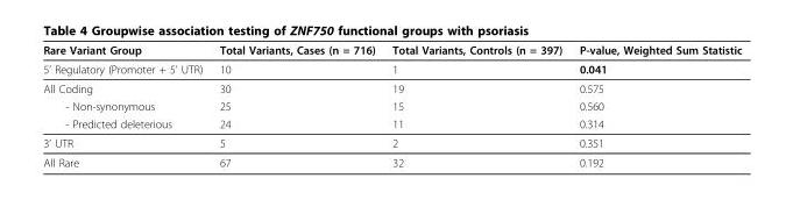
<table><thead><tr><td>Rare Variant Group</td><td>Total Variants, Cases (n = 716)</td><td>Total Variants, Controls (n = 397)</td><td>P-value, Weighted Sum Statistic</td></tr></thead><tbody><tr><td>5’ Regulatory (Promoter + 5’ UTR)</td><td>10</td><td>1</td><td>0.041</td></tr><tr><td>All Coding</td><td>30</td><td>19</td><td>0.575</td></tr><tr><td>- Non-synonymous</td><td>25</td><td>15</td><td>0.560</td></tr><tr><td>- Predicted deleterious</td><td>24</td><td>11</td><td>0.314</td></tr><tr><td>3’ UTR</td><td>5</td><td>2</td><td>0.351</td></tr><tr><td>All Rare</td><td>67</td><td>32</td><td>0.192</td></tr></tbody></table>